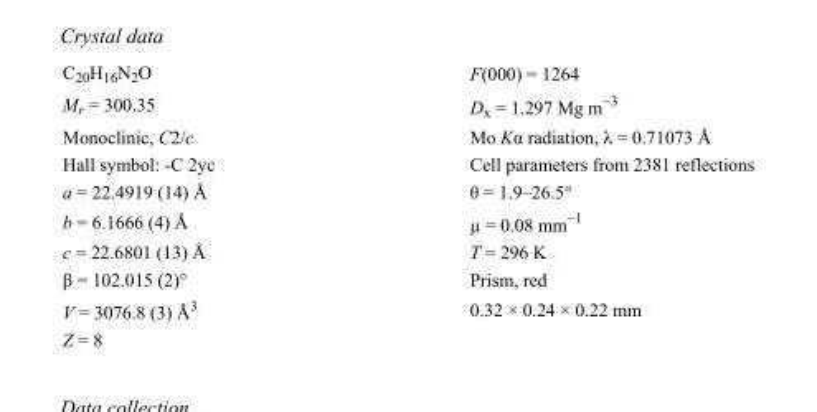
<table><tbody><tr><td>C<sub>20</sub>H<sub>16</sub>N<sub>2</sub>O</td><td>F(000) = 1264</td></tr><tr><td>M<sub>r</sub> = 300.35</td><td>D<sub>x</sub> = 1.297 Mg m<sup>−3</sup></td></tr><tr><td>Monoclinic, C2/c</td><td>Mo Kα radiation, λ = 0.71073 Å</td></tr><tr><td>Hall symbol: -C 2yc</td><td>Cell parameters from 2381 reflections</td></tr><tr><td>a = 22.4919 (14) Å</td><td>θ = 1.9–26.5°</td></tr><tr><td>b = 6.1666 (4) Å</td><td>µ = 0.08 mm<sup>−1</sup></td></tr><tr><td>c = 22.6801 (13) Å</td><td>T = 296 K</td></tr><tr><td>β = 102.015 (2)°</td><td>Prism, red</td></tr><tr><td>V = 3076.8 (3) Å<sup>3</sup></td><td>0.32 × 0.24 × 0.22 mm</td></tr><tr><td>Z = 8</td><td></td></tr></tbody></table>